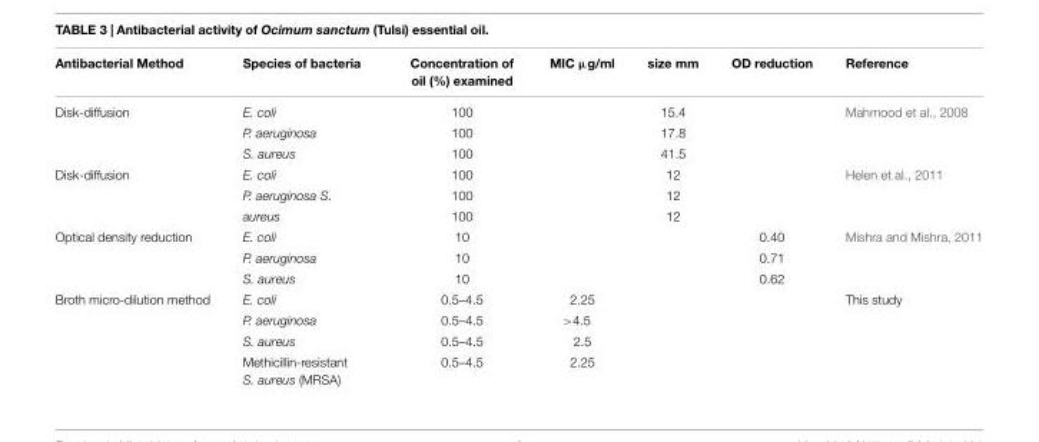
<table><thead><tr><td>Antibacterial Method</td><td>Species of bacteria</td><td>Concentration of oil (%) examined</td><td>MIC µg/ml</td><td>size mm</td><td>OD reduction</td><td>Reference</td></tr></thead><tbody><tr><td rowspan="3">Disk-diffusion</td><td>E. coli</td><td>100</td><td></td><td>15.4</td><td></td><td>Mahmood et al., 2008</td></tr><tr><td>P. aeruginosa</td><td>100</td><td></td><td>17.8</td><td></td><td></td></tr><tr><td>S. aureus</td><td>100</td><td></td><td>41.5</td><td></td><td></td></tr><tr><td rowspan="3">Disk-diffusion</td><td>E. coli</td><td>100</td><td></td><td>12</td><td></td><td>Helen et al., 2011</td></tr><tr><td>P. aeruginosa S.</td><td>100</td><td></td><td>12</td><td></td><td></td></tr><tr><td>aureus</td><td>100</td><td></td><td>12</td><td></td><td></td></tr><tr><td rowspan="3">Optical density reduction</td><td>E. coli</td><td>10</td><td></td><td></td><td>0.40</td><td>Mishra and Mishra, 2011</td></tr><tr><td>P. aeruginosa</td><td>10</td><td></td><td></td><td>0.71</td><td></td></tr><tr><td>S. aureus</td><td>10</td><td></td><td></td><td>0.62</td><td></td></tr><tr><td rowspan="4">Broth micro-dilution method</td><td>E. coli</td><td>0.5–4.5</td><td>2.25</td><td></td><td></td><td>This study</td></tr><tr><td>P. aeruginosa</td><td>0.5–4.5</td><td>&gt;4.5</td><td></td><td></td><td></td></tr><tr><td>S. aureus</td><td>0.5–4.5</td><td>2.5</td><td></td><td></td><td></td></tr><tr><td>Methicillin-resistant S. aureus (MRSA)</td><td>0.5–4.5</td><td>2.25</td><td></td><td></td><td></td></tr></tbody></table>